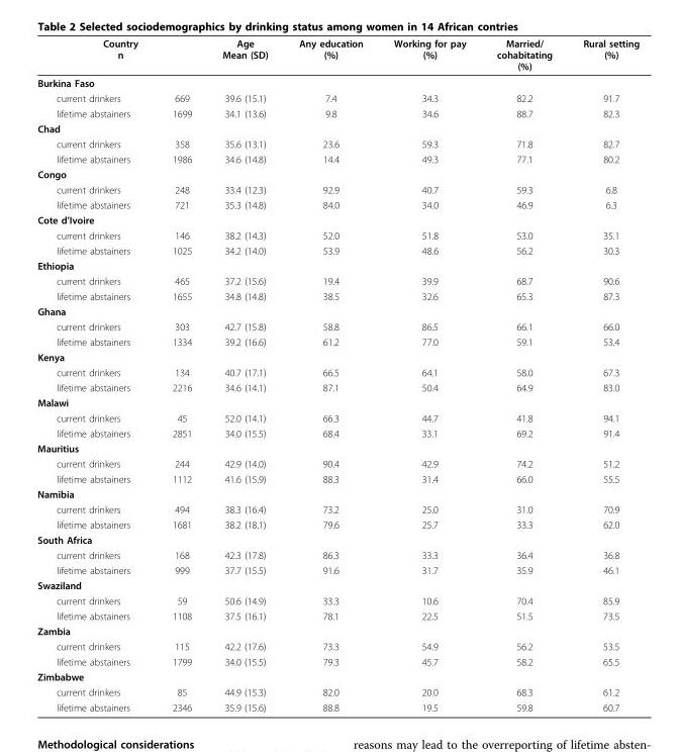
<table><thead><tr><td colspan="2">Country n</td><td rowspan="2">Age Mean (SD)</td><td rowspan="2">Any education (%)</td><td rowspan="2">Working for pay (%)</td><td rowspan="2">Married/ cohabitating (%)</td><td rowspan="2">Rural setting (%)</td></tr><tr><td>Burkina Faso</td><td></td></tr></thead><tbody><tr><td>current drinkers</td><td>669</td><td>39.6 (15.1)</td><td>7.4</td><td>34.3</td><td>82.2</td><td>91.7</td></tr><tr><td>lifetime abstainers</td><td>1699</td><td>34.1 (13.6)</td><td>9.8</td><td>34.6</td><td>88.7</td><td>82.3</td></tr><tr><td colspan="7">Chad</td></tr><tr><td>current drinkers</td><td>358</td><td>35.6 (13.1)</td><td>23.6</td><td>59.3</td><td>71.8</td><td>82.7</td></tr><tr><td>lifetime abstainers</td><td>1986</td><td>34.6 (14.8)</td><td>14.4</td><td>49.3</td><td>77.1</td><td>80.2</td></tr><tr><td colspan="7">Congo</td></tr><tr><td>current drinkers</td><td>248</td><td>33.4 (12.3)</td><td>92.9</td><td>40.7</td><td>59.3</td><td>6.8</td></tr><tr><td>lifetime abstainers</td><td>721</td><td>35.3 (14.8)</td><td>84.0</td><td>34.0</td><td>46.9</td><td>6.3</td></tr><tr><td colspan="7">Cote d’Ivoire</td></tr><tr><td>current drinkers</td><td>146</td><td>38.2 (14.3)</td><td>52.0</td><td>51.8</td><td>53.0</td><td>35.1</td></tr><tr><td>lifetime abstainers</td><td>1025</td><td>34.2 (14.0)</td><td>53.9</td><td>48.6</td><td>56.2</td><td>30.3</td></tr><tr><td colspan="7">Ethiopia</td></tr><tr><td>current drinkers</td><td>465</td><td>37.2 (15.6)</td><td>19.4</td><td>39.9</td><td>68.7</td><td>90.6</td></tr><tr><td>lifetime abstainers</td><td>1655</td><td>34.8 (14.8)</td><td>38.5</td><td>32.6</td><td>65.3</td><td>87.3</td></tr><tr><td colspan="7">Ghana</td></tr><tr><td>current drinkers</td><td>303</td><td>42.7 (15.8)</td><td>58.8</td><td>86.5</td><td>66.1</td><td>66.0</td></tr><tr><td>lifetime abstainers</td><td>1334</td><td>39.2 (16.6)</td><td>61.2</td><td>77.0</td><td>59.1</td><td>53.4</td></tr><tr><td colspan="7">Kenya</td></tr><tr><td>current drinkers</td><td>134</td><td>40.7 (17.1)</td><td>66.5</td><td>64.1</td><td>58.0</td><td>67.3</td></tr><tr><td>lifetime abstainers</td><td>2216</td><td>34.6 (14.1)</td><td>87.1</td><td>50.4</td><td>64.9</td><td>83.0</td></tr><tr><td colspan="7">Malawi</td></tr><tr><td>current drinkers</td><td>45</td><td>52.0 (14.1)</td><td>66.3</td><td>44.7</td><td>41.8</td><td>94.1</td></tr><tr><td>lifetime abstainers</td><td>2851</td><td>34.0 (15.5)</td><td>68.4</td><td>33.1</td><td>69.2</td><td>91.4</td></tr><tr><td colspan="7">Mauritius</td></tr><tr><td>current drinkers</td><td>244</td><td>42.9 (14.0)</td><td>90.4</td><td>42.9</td><td>74.2</td><td>51.2</td></tr><tr><td>lifetime abstainers</td><td>1112</td><td>41.6 (15.9)</td><td>88.3</td><td>31.4</td><td>66.0</td><td>55.5</td></tr><tr><td colspan="7">Namibia</td></tr><tr><td>current drinkers</td><td>494</td><td>38.3 (16.4)</td><td>73.2</td><td>25.0</td><td>31.0</td><td>70.9</td></tr><tr><td>lifetime abstainers</td><td>1681</td><td>38.2 (18.1)</td><td>79.6</td><td>25.7</td><td>33.3</td><td>62.0</td></tr><tr><td colspan="7">South Africa</td></tr><tr><td>current drinkers</td><td>168</td><td>42.3 (17.8)</td><td>86.3</td><td>33.3</td><td>36.4</td><td>36.8</td></tr><tr><td>lifetime abstainers</td><td>999</td><td>37.7 (15.5)</td><td>91.6</td><td>31.7</td><td>35.9</td><td>46.1</td></tr><tr><td colspan="7">Swaziland</td></tr><tr><td>current drinkers</td><td>59</td><td>50.6 (14.9)</td><td>33.3</td><td>10.6</td><td>70.4</td><td>85.9</td></tr><tr><td>lifetime abstainers</td><td>1108</td><td>37.5 (16.1)</td><td>78.1</td><td>22.5</td><td>51.5</td><td>73.5</td></tr><tr><td colspan="7">Zambia</td></tr><tr><td>current drinkers</td><td>115</td><td>42.2 (17.6)</td><td>73.3</td><td>54.9</td><td>56.2</td><td>53.5</td></tr><tr><td>lifetime abstainers</td><td>1799</td><td>34.0 (15.5)</td><td>79.3</td><td>45.7</td><td>58.2</td><td>65.5</td></tr><tr><td colspan="7">Zimbabwe</td></tr><tr><td>current drinkers</td><td>85</td><td>44.9 (15.3)</td><td>82.0</td><td>20.0</td><td>68.3</td><td>61.2</td></tr><tr><td>lifetime abstainers</td><td>2346</td><td>35.9 (15.6)</td><td>88.8</td><td>19.5</td><td>59.8</td><td>60.7</td></tr></tbody></table>